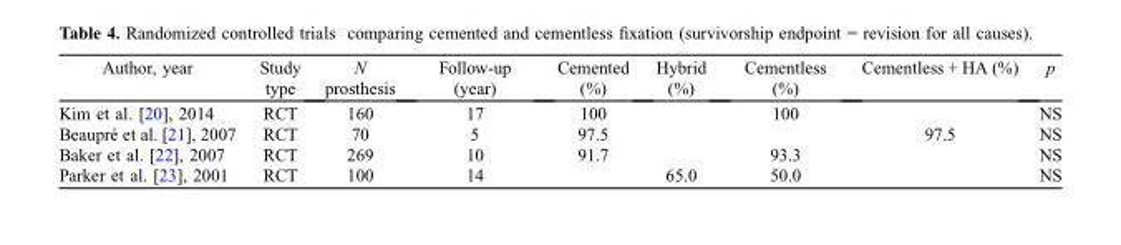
<table><thead><tr><td>Author, year</td><td>Study type</td><td>N prosthesis</td><td>Follow-up (year)</td><td>Cemented (%)</td><td>Hybrid (%)</td><td>Cementless (%)</td><td>Cementless + HA (%)</td><td>p</td></tr></thead><tbody><tr><td>Kim et al. [20], 2014</td><td>RCT</td><td>160</td><td>17</td><td>100</td><td></td><td>100</td><td></td><td>NS</td></tr><tr><td>Beaupré et al. [21], 2007</td><td>RCT</td><td>70</td><td>5</td><td>97.5</td><td></td><td></td><td>97.5</td><td>NS</td></tr><tr><td>Baker et al. [22], 2007</td><td>RCT</td><td>269</td><td>10</td><td>91.7</td><td></td><td>93.3</td><td></td><td>NS</td></tr><tr><td>Parker et al. [23], 2001</td><td>RCT</td><td>100</td><td>14</td><td></td><td>65.0</td><td>50.0</td><td></td><td>NS</td></tr></tbody></table>